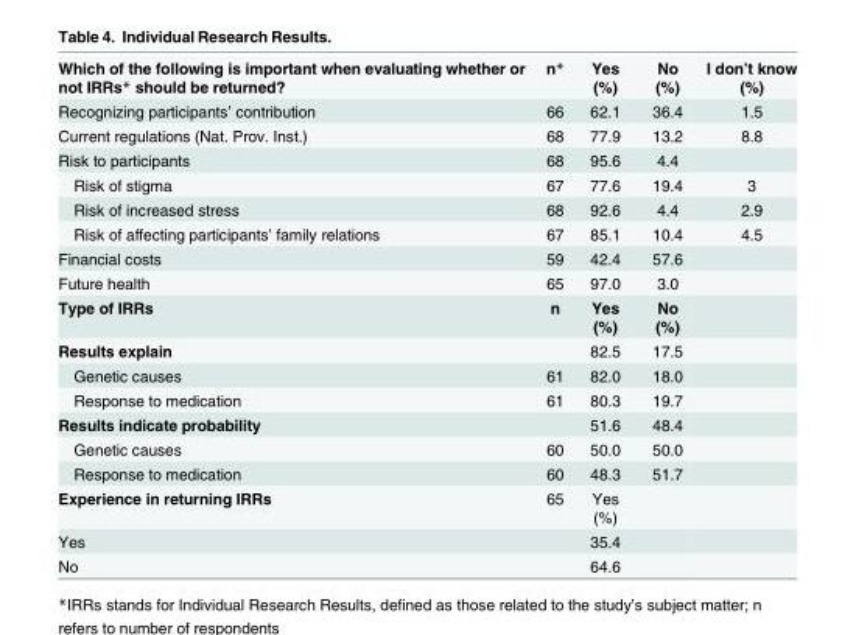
<table><tbody><tr><td>Which of the following is important when evaluating whether or not IRRs* should be returned?</td><td>n*</td><td>Yes (%)</td><td>No (%)</td><td>I don’t know (%)</td></tr><tr><td>Recognizing participants’ contribution</td><td>66</td><td>62.1</td><td>36.4</td><td>1.5</td></tr><tr><td>Current regulations (Nat. Prov. Inst.)</td><td>68</td><td>77.9</td><td>13.2</td><td>8.8</td></tr><tr><td>Risk to participants</td><td>68</td><td>95.6</td><td>4.4</td><td></td></tr><tr><td>Risk of stigma</td><td>67</td><td>77.6</td><td>19.4</td><td>3</td></tr><tr><td>Risk of increased stress</td><td>68</td><td>92.6</td><td>4.4</td><td>2.9</td></tr><tr><td>Risk of affecting participants’ family relations</td><td>67</td><td>85.1</td><td>10.4</td><td>4.5</td></tr><tr><td>Financial costs</td><td>59</td><td>42.4</td><td>57.6</td><td></td></tr><tr><td>Future health</td><td>65</td><td>97.0</td><td>3.0</td><td></td></tr><tr><td>Type of IRRs</td><td>n</td><td>Yes (%)</td><td>No (%)</td><td></td></tr><tr><td>Results explain</td><td></td><td>82.5</td><td>17.5</td><td></td></tr><tr><td>Genetic causes</td><td>61</td><td>82.0</td><td>18.0</td><td></td></tr><tr><td>Response to medication</td><td>61</td><td>80.3</td><td>19.7</td><td></td></tr><tr><td>Results indicate probability</td><td></td><td>51.6</td><td>48.4</td><td></td></tr><tr><td>Genetic causes</td><td>60</td><td>50.0</td><td>50.0</td><td></td></tr><tr><td>Response to medication</td><td>60</td><td>48.3</td><td>51.7</td><td></td></tr><tr><td>Experience in returning IRRs</td><td>65</td><td>Yes (%)</td><td></td><td></td></tr><tr><td>Yes</td><td></td><td>35.4</td><td></td><td></td></tr><tr><td>No</td><td></td><td>64.6</td><td></td><td></td></tr></tbody></table>